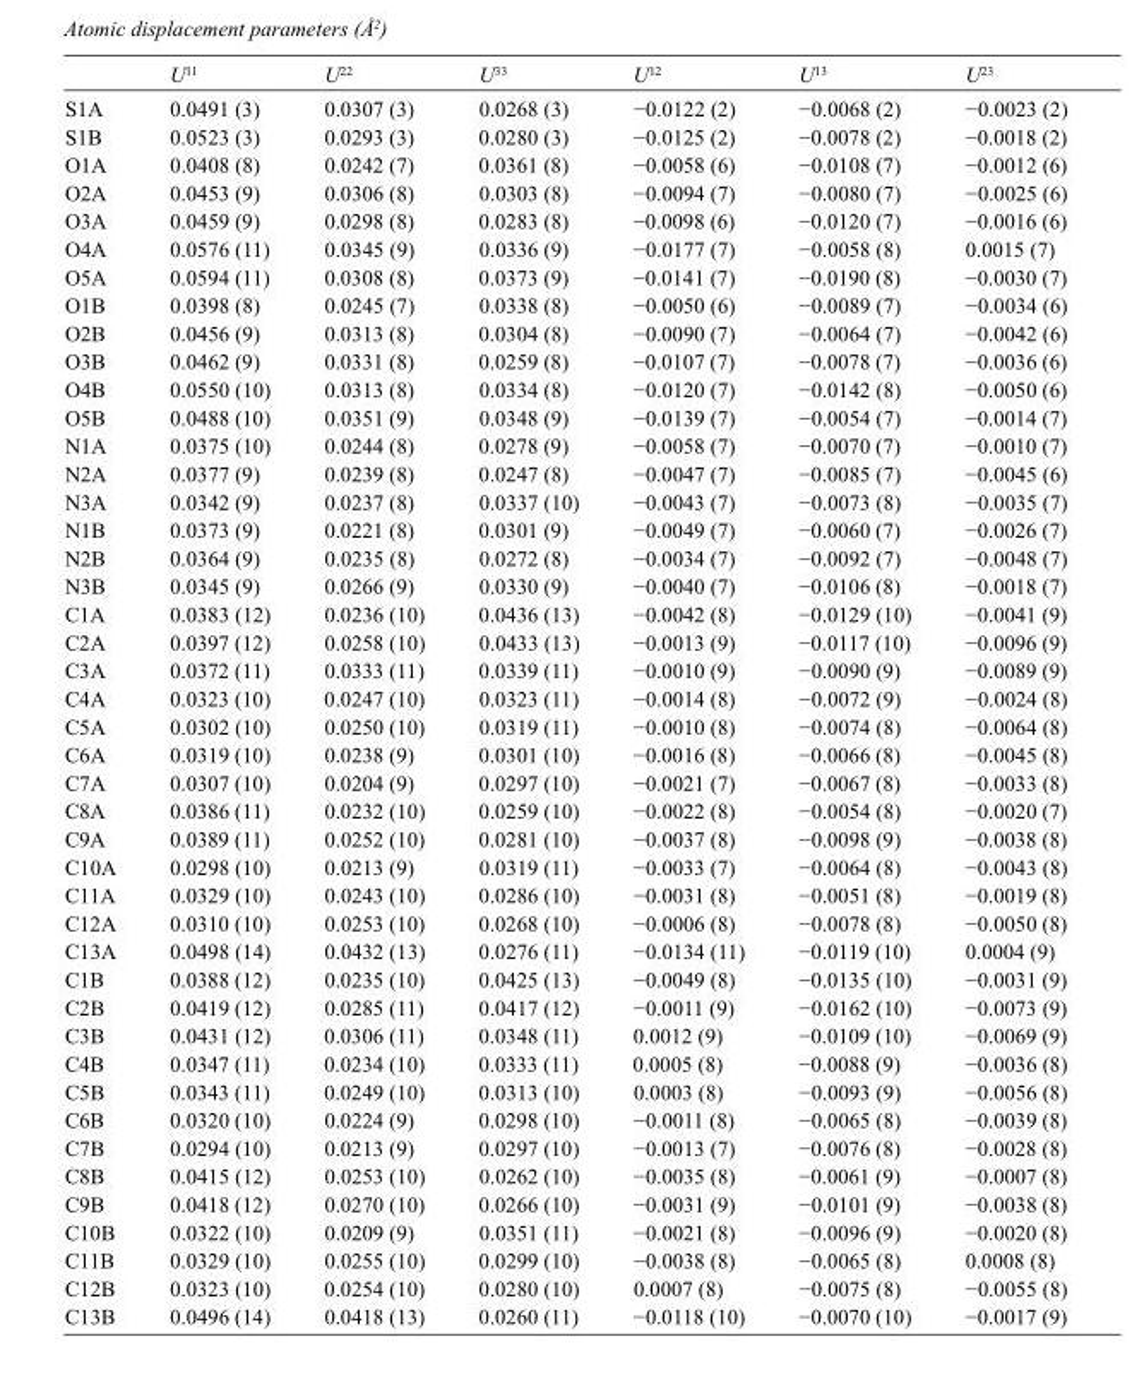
<table><thead><tr><td></td><td>U<sup>11</sup></td><td>U<sup>22</sup></td><td>U<sup>33</sup></td><td>U<sup>12</sup></td><td>U<sup>13</sup></td><td>U<sup>23</sup></td></tr></thead><tbody><tr><td>S1A</td><td>0.0491 (3)</td><td>0.0307 (3)</td><td>0.0268 (3)</td><td>−0.0122 (2)</td><td>−0.0068 (2)</td><td>−0.0023 (2)</td></tr><tr><td>S1B</td><td>0.0523 (3)</td><td>0.0293 (3)</td><td>0.0280 (3)</td><td>−0.0125 (2)</td><td>−0.0078 (2)</td><td>−0.0018 (2)</td></tr><tr><td>O1A</td><td>0.0408 (8)</td><td>0.0242 (7)</td><td>0.0361 (8)</td><td>−0.0058 (6)</td><td>−0.0108 (7)</td><td>−0.0012 (6)</td></tr><tr><td>O2A</td><td>0.0453 (9)</td><td>0.0306 (8)</td><td>0.0303 (8)</td><td>−0.0094 (7)</td><td>−0.0080 (7)</td><td>−0.0025 (6)</td></tr><tr><td>O3A</td><td>0.0459 (9)</td><td>0.0298 (8)</td><td>0.0283 (8)</td><td>−0.0098 (6)</td><td>−0.0120 (7)</td><td>−0.0016 (6)</td></tr><tr><td>O4A</td><td>0.0576 (11)</td><td>0.0345 (9)</td><td>0.0336 (9)</td><td>−0.0177 (7)</td><td>−0.0058 (8)</td><td>0.0015 (7)</td></tr><tr><td>O5A</td><td>0.0594 (11)</td><td>0.0308 (8)</td><td>0.0373 (9)</td><td>−0.0141 (7)</td><td>−0.0190 (8)</td><td>−0.0030 (7)</td></tr><tr><td>O1B</td><td>0.0398 (8)</td><td>0.0245 (7)</td><td>0.0338 (8)</td><td>−0.0050 (6)</td><td>−0.0089 (7)</td><td>−0.0034 (6)</td></tr><tr><td>O2B</td><td>0.0456 (9)</td><td>0.0313 (8)</td><td>0.0304 (8)</td><td>−0.0090 (7)</td><td>−0.0064 (7)</td><td>−0.0042 (6)</td></tr><tr><td>O3B</td><td>0.0462 (9)</td><td>0.0331 (8)</td><td>0.0259 (8)</td><td>−0.0107 (7)</td><td>−0.0078 (7)</td><td>−0.0036 (6)</td></tr><tr><td>O4B</td><td>0.0550 (10)</td><td>0.0313 (8)</td><td>0.0334 (8)</td><td>−0.0120 (7)</td><td>−0.0142 (8)</td><td>−0.0050 (6)</td></tr><tr><td>O5B</td><td>0.0488 (10)</td><td>0.0351 (9)</td><td>0.0348 (9)</td><td>−0.0139 (7)</td><td>−0.0054 (7)</td><td>−0.0014 (7)</td></tr><tr><td>N1A</td><td>0.0375 (10)</td><td>0.0244 (8)</td><td>0.0278 (9)</td><td>−0.0058 (7)</td><td>−0.0070 (7)</td><td>−0.0010 (7)</td></tr><tr><td>N2A</td><td>0.0377 (9)</td><td>0.0239 (8)</td><td>0.0247 (8)</td><td>−0.0047 (7)</td><td>−0.0085 (7)</td><td>−0.0045 (6)</td></tr><tr><td>N3A</td><td>0.0342 (9)</td><td>0.0237 (8)</td><td>0.0337 (10)</td><td>−0.0043 (7)</td><td>−0.0073 (8)</td><td>−0.0035 (7)</td></tr><tr><td>N1B</td><td>0.0373 (9)</td><td>0.0221 (8)</td><td>0.0301 (9)</td><td>−0.0049 (7)</td><td>−0.0060 (7)</td><td>−0.0026 (7)</td></tr><tr><td>N2B</td><td>0.0364 (9)</td><td>0.0235 (8)</td><td>0.0272 (8)</td><td>−0.0034 (7)</td><td>−0.0092 (7)</td><td>−0.0048 (7)</td></tr><tr><td>N3B</td><td>0.0345 (9)</td><td>0.0266 (9)</td><td>0.0330 (9)</td><td>−0.0040 (7)</td><td>−0.0106 (8)</td><td>−0.0018 (7)</td></tr><tr><td>C1A</td><td>0.0383 (12)</td><td>0.0236 (10)</td><td>0.0436 (13)</td><td>−0.0042 (8)</td><td>−0.0129 (10)</td><td>−0.0041 (9)</td></tr><tr><td>C2A</td><td>0.0397 (12)</td><td>0.0258 (10)</td><td>0.0433 (13)</td><td>−0.0013 (9)</td><td>−0.0117 (10)</td><td>−0.0096 (9)</td></tr><tr><td>C3A</td><td>0.0372 (11)</td><td>0.0333 (11)</td><td>0.0339 (11)</td><td>−0.0010 (9)</td><td>−0.0090 (9)</td><td>−0.0089 (9)</td></tr><tr><td>C4A</td><td>0.0323 (10)</td><td>0.0247 (10)</td><td>0.0323 (11)</td><td>−0.0014 (8)</td><td>−0.0072 (9)</td><td>−0.0024 (8)</td></tr><tr><td>C5A</td><td>0.0302 (10)</td><td>0.0250 (10)</td><td>0.0319 (11)</td><td>−0.0010 (8)</td><td>−0.0074 (8)</td><td>−0.0064 (8)</td></tr><tr><td>C6A</td><td>0.0319 (10)</td><td>0.0238 (9)</td><td>0.0301 (10)</td><td>−0.0016 (8)</td><td>−0.0066 (8)</td><td>−0.0045 (8)</td></tr><tr><td>C7A</td><td>0.0307 (10)</td><td>0.0204 (9)</td><td>0.0297 (10)</td><td>−0.0021 (7)</td><td>−0.0067 (8)</td><td>−0.0033 (8)</td></tr><tr><td>C8A</td><td>0.0386 (11)</td><td>0.0232 (10)</td><td>0.0259 (10)</td><td>−0.0022 (8)</td><td>−0.0054 (8)</td><td>−0.0020 (7)</td></tr><tr><td>C9A</td><td>0.0389 (11)</td><td>0.0252 (10)</td><td>0.0281 (10)</td><td>−0.0037 (8)</td><td>−0.0098 (9)</td><td>−0.0038 (8)</td></tr><tr><td>C10A</td><td>0.0298 (10)</td><td>0.0213 (9)</td><td>0.0319 (11)</td><td>−0.0033 (7)</td><td>−0.0064 (8)</td><td>−0.0043 (8)</td></tr><tr><td>C11A</td><td>0.0329 (10)</td><td>0.0243 (10)</td><td>0.0286 (10)</td><td>−0.0031 (8)</td><td>−0.0051 (8)</td><td>−0.0019 (8)</td></tr><tr><td>C12A</td><td>0.0310 (10)</td><td>0.0253 (10)</td><td>0.0268 (10)</td><td>−0.0006 (8)</td><td>−0.0078 (8)</td><td>−0.0050 (8)</td></tr><tr><td>C13A</td><td>0.0498 (14)</td><td>0.0432 (13)</td><td>0.0276 (11)</td><td>−0.0134 (11)</td><td>−0.0119 (10)</td><td>0.0004 (9)</td></tr><tr><td>C1B</td><td>0.0388 (12)</td><td>0.0235 (10)</td><td>0.0425 (13)</td><td>−0.0049 (8)</td><td>−0.0135 (10)</td><td>−0.0031 (9)</td></tr><tr><td>C2B</td><td>0.0419 (12)</td><td>0.0285 (11)</td><td>0.0417 (12)</td><td>−0.0011 (9)</td><td>−0.0162 (10)</td><td>−0.0073 (9)</td></tr><tr><td>C3B</td><td>0.0431 (12)</td><td>0.0306 (11)</td><td>0.0348 (11)</td><td>0.0012 (9)</td><td>−0.0109 (10)</td><td>−0.0069 (9)</td></tr><tr><td>C4B</td><td>0.0347 (11)</td><td>0.0234 (10)</td><td>0.0333 (11)</td><td>0.0005 (8)</td><td>−0.0088 (9)</td><td>−0.0036 (8)</td></tr><tr><td>C5B</td><td>0.0343 (11)</td><td>0.0249 (10)</td><td>0.0313 (10)</td><td>0.0003 (8)</td><td>−0.0093 (9)</td><td>−0.0056 (8)</td></tr><tr><td>C6B</td><td>0.0320 (10)</td><td>0.0224 (9)</td><td>0.0298 (10)</td><td>−0.0011 (8)</td><td>−0.0065 (8)</td><td>−0.0039 (8)</td></tr><tr><td>C7B</td><td>0.0294 (10)</td><td>0.0213 (9)</td><td>0.0297 (10)</td><td>−0.0013 (7)</td><td>−0.0076 (8)</td><td>−0.0028 (8)</td></tr><tr><td>C8B</td><td>0.0415 (12)</td><td>0.0253 (10)</td><td>0.0262 (10)</td><td>−0.0035 (8)</td><td>−0.0061 (9)</td><td>−0.0007 (8)</td></tr><tr><td>C9B</td><td>0.0418 (12)</td><td>0.0270 (10)</td><td>0.0266 (10)</td><td>−0.0031 (9)</td><td>−0.0101 (9)</td><td>−0.0038 (8)</td></tr><tr><td>C10B</td><td>0.0322 (10)</td><td>0.0209 (9)</td><td>0.0351 (11)</td><td>−0.0021 (8)</td><td>−0.0096 (9)</td><td>−0.0020 (8)</td></tr><tr><td>C11B</td><td>0.0329 (10)</td><td>0.0255 (10)</td><td>0.0299 (10)</td><td>−0.0038 (8)</td><td>−0.0065 (8)</td><td>0.0008 (8)</td></tr><tr><td>C12B</td><td>0.0323 (10)</td><td>0.0254 (10)</td><td>0.0280 (10)</td><td>0.0007 (8)</td><td>−0.0075 (8)</td><td>−0.0055 (8)</td></tr><tr><td>C13B</td><td>0.0496 (14)</td><td>0.0418 (13)</td><td>0.0260 (11)</td><td>−0.0118 (10)</td><td>−0.0070 (10)</td><td>−0.0017 (9)</td></tr></tbody></table>